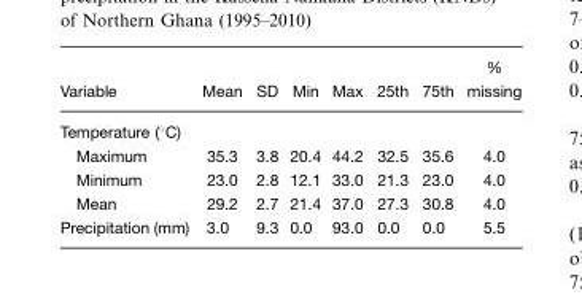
<table><thead><tr><td>Variable</td><td>Mean</td><td>SD</td><td>Min</td><td>Max</td><td>25th</td><td>75th</td><td>% missing</td></tr></thead><tbody><tr><td colspan="8">Temperature (°C)</td></tr><tr><td>Maximum</td><td>35.3</td><td>3.8</td><td>20.4</td><td>44.2</td><td>32.5</td><td>35.6</td><td>4.0</td></tr><tr><td>Minimum</td><td>23.0</td><td>2.8</td><td>12.1</td><td>33.0</td><td>21.3</td><td>23.0</td><td>4.0</td></tr><tr><td>Mean</td><td>29.2</td><td>2.7</td><td>21.4</td><td>37.0</td><td>27.3</td><td>30.8</td><td>4.0</td></tr><tr><td>Precipitation (mm)</td><td>3.0</td><td>9.3</td><td>0.0</td><td>93.0</td><td>0.0</td><td>0.0</td><td>5.5</td></tr></tbody></table>